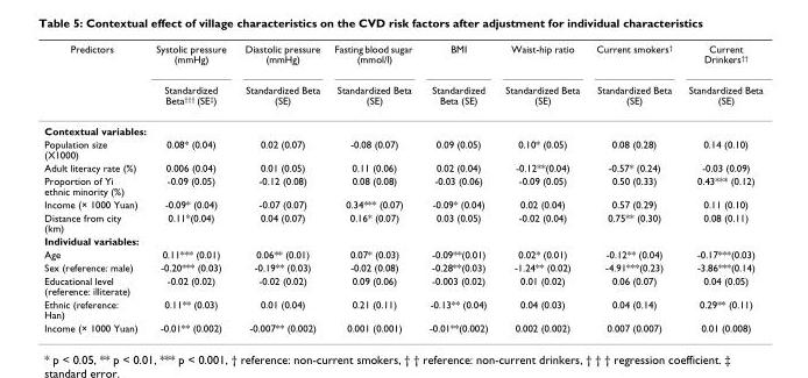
<table><thead><tr><td rowspan="2">Predictors</td><td rowspan="2">Systolic pressure (mmHg) Standardized Beta<sup>†††</sup> (SE<sup>‡</sup>)</td><td rowspan="2">Diastolic pressure (mmHg) Standardized Beta (SE)</td><td rowspan="2">Fasting blood sugar (mmol/l) Standardized Beta (SE)</td><td rowspan="2">BMI Standardized Beta (SE)</td><td rowspan="2">Waist-hip ratio Standardized Beta (SE)</td><td rowspan="2">Current smokers<sup>†</sup> Standardized Beta (SE)</td><td rowspan="2">Current Drinkers<sup>††</sup> Standardized Beta (SE)</td></tr><tr></tr></thead><tbody><tr><td colspan="8">Contextual variables:</td></tr><tr><td>Population size (X1000)</td><td>0.08* (0.04)</td><td>0.02 (0.07)</td><td>-0.08 (0.07)</td><td>0.09 (0.05)</td><td>0.10* (0.05)</td><td>0.08 (0.28)</td><td>0.14 (0.10)</td></tr><tr><td>Adult literacy rate (%)</td><td>0.006 (0.04)</td><td>0.01 (0.05)</td><td>0.11 (0.06)</td><td>0.02 (0.04)</td><td>-0.12**(0.04)</td><td>-0.57* (0.24)</td><td>-0.03 (0.09)</td></tr><tr><td>Proportion of Yi ethnic minority (%)</td><td>-0.09 (0.05)</td><td>-0.12 (0.08)</td><td>0.08 (0.08)</td><td>-0.03 (0.06)</td><td>-0.09 (0.05)</td><td>0.50 (0.33)</td><td>0.43*** (0.12)</td></tr><tr><td>Income (× 1000 Yuan)</td><td>-0.09* (0.04)</td><td>-0.07 (0.07)</td><td>0.34*** (0.07)</td><td>-0.09* (0.04)</td><td>0.02 (0.04)</td><td>0.57 (0.29)</td><td>0.11 (0.10)</td></tr><tr><td>Distance from city (km)</td><td>0.11*(0.04)</td><td>0.04 (0.07)</td><td>0.16* (0.07)</td><td>0.03 (0.05)</td><td>-0.02 (0.04)</td><td>0.75** (0.30)</td><td>0.08 (0.11)</td></tr><tr><td colspan="8">Individual variables:</td></tr><tr><td>Age</td><td>0.11*** (0.01)</td><td>0.06** (0.01)</td><td>0.07* (0.03)</td><td>-0.09**(0.01)</td><td>0.02* (0.01)</td><td>-0.12** (0.04)</td><td>-0.17***(0.03)</td></tr><tr><td>Sex (reference: male)</td><td>-0.20*** (0.03)</td><td>-0.19** (0.03)</td><td>-0.02 (0.08)</td><td>-0.28**(0.03)</td><td>-1.24** (0.02)</td><td>-4.91***(0.23)</td><td>-3.86***(0.14)</td></tr><tr><td>Educational level (reference: illiterate)</td><td>-0.02 (0.02)</td><td>-0.02 (0.02)</td><td>0.09 (0.06)</td><td>-0.003 (0.02)</td><td>0.01 (0.02)</td><td>0.06 (0.07)</td><td>0.04 (0.05)</td></tr><tr><td>Ethnic (reference: Han)</td><td>0.11** (0.03)</td><td>0.01 (0.04)</td><td>0.21 (0.11)</td><td>-0.13** (0.04)</td><td>0.04 (0.03)</td><td>0.04 (0.14)</td><td>0.29** (0.11)</td></tr><tr><td>Income (× 1000 Yuan)</td><td>-0.01** (0.002)</td><td>-0.007** (0.002)</td><td>0.001 (0.001)</td><td>-0.01**(0.002)</td><td>0.002 (0.002)</td><td>0.007 (0.007)</td><td>0.01 (0.008)</td></tr></tbody></table>